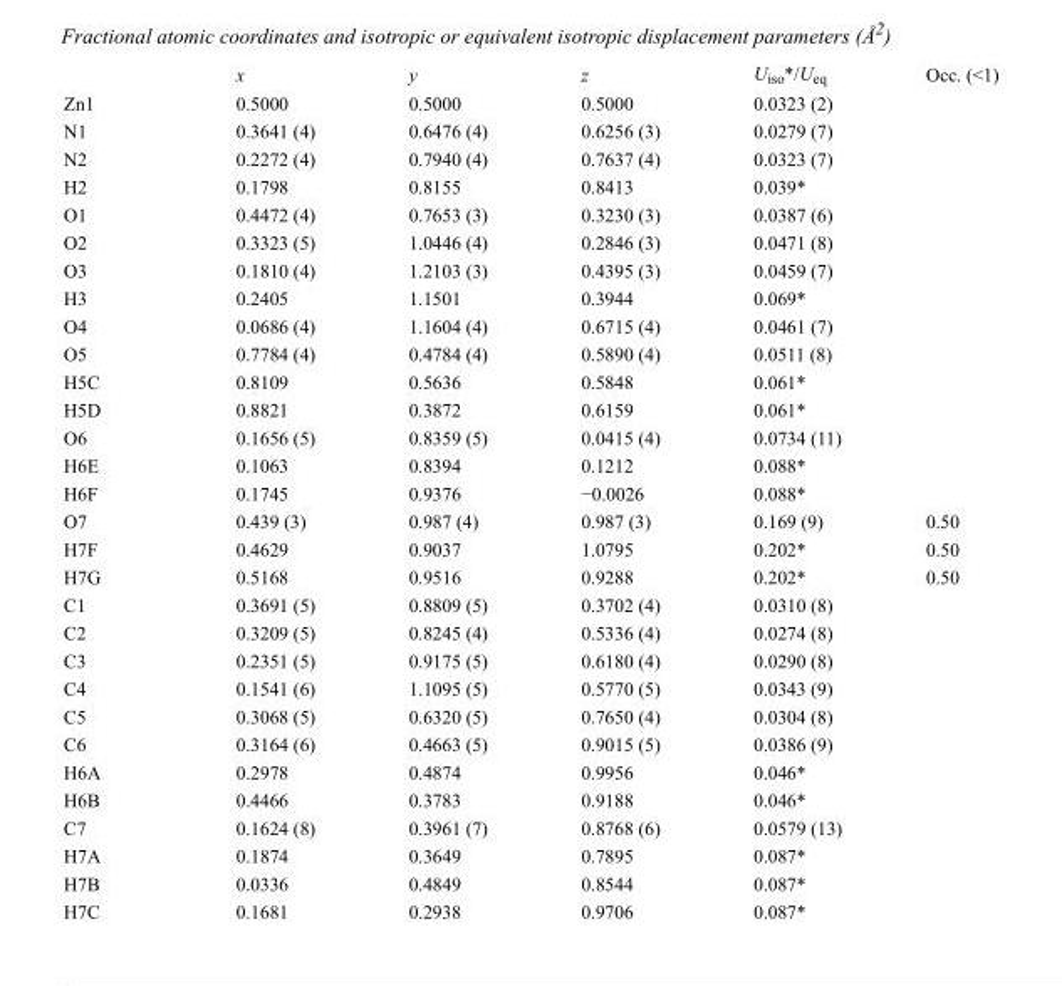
<table><thead><tr><td></td><td>x</td><td>y</td><td>z</td><td>U<sub>iso</sub>*/U<sub>eq</sub></td><td>Occ. (&lt;1)</td></tr></thead><tbody><tr><td>Zn1</td><td>0.5000</td><td>0.5000</td><td>0.5000</td><td>0.0323 (2)</td><td></td></tr><tr><td>N1</td><td>0.3641 (4)</td><td>0.6476 (4)</td><td>0.6256 (3)</td><td>0.0279 (7)</td><td></td></tr><tr><td>N2</td><td>0.2272 (4)</td><td>0.7940 (4)</td><td>0.7637 (4)</td><td>0.0323 (7)</td><td></td></tr><tr><td>H2</td><td>0.1798</td><td>0.8155</td><td>0.8413</td><td>0.039*</td><td></td></tr><tr><td>O1</td><td>0.4472 (4)</td><td>0.7653 (3)</td><td>0.3230 (3)</td><td>0.0387 (6)</td><td></td></tr><tr><td>O2</td><td>0.3323 (5)</td><td>1.0446 (4)</td><td>0.2846 (3)</td><td>0.0471 (8)</td><td></td></tr><tr><td>O3</td><td>0.1810 (4)</td><td>1.2103 (3)</td><td>0.4395 (3)</td><td>0.0459 (7)</td><td></td></tr><tr><td>H3</td><td>0.2405</td><td>1.1501</td><td>0.3944</td><td>0.069*</td><td></td></tr><tr><td>O4</td><td>0.0686 (4)</td><td>1.1604 (4)</td><td>0.6715 (4)</td><td>0.0461 (7)</td><td></td></tr><tr><td>O5</td><td>0.7784 (4)</td><td>0.4784 (4)</td><td>0.5890 (4)</td><td>0.0511 (8)</td><td></td></tr><tr><td>H5C</td><td>0.8109</td><td>0.5636</td><td>0.5848</td><td>0.061*</td><td></td></tr><tr><td>H5D</td><td>0.8821</td><td>0.3872</td><td>0.6159</td><td>0.061*</td><td></td></tr><tr><td>O6</td><td>0.1656 (5)</td><td>0.8359 (5)</td><td>0.0415 (4)</td><td>0.0734 (11)</td><td></td></tr><tr><td>H6E</td><td>0.1063</td><td>0.8394</td><td>0.1212</td><td>0.088*</td><td></td></tr><tr><td>H6F</td><td>0.1745</td><td>0.9376</td><td>−0.0026</td><td>0.088*</td><td></td></tr><tr><td>O7</td><td>0.439 (3)</td><td>0.987 (4)</td><td>0.987 (3)</td><td>0.169 (9)</td><td>0.50</td></tr><tr><td>H7F</td><td>0.4629</td><td>0.9037</td><td>1.0795</td><td>0.202*</td><td>0.50</td></tr><tr><td>H7G</td><td>0.5168</td><td>0.9516</td><td>0.9288</td><td>0.202*</td><td>0.50</td></tr><tr><td>C1</td><td>0.3691 (5)</td><td>0.8809 (5)</td><td>0.3702 (4)</td><td>0.0310 (8)</td><td></td></tr><tr><td>C2</td><td>0.3209 (5)</td><td>0.8245 (4)</td><td>0.5336 (4)</td><td>0.0274 (8)</td><td></td></tr><tr><td>C3</td><td>0.2351 (5)</td><td>0.9175 (5)</td><td>0.6180 (4)</td><td>0.0290 (8)</td><td></td></tr><tr><td>C4</td><td>0.1541 (6)</td><td>1.1095 (5)</td><td>0.5770 (5)</td><td>0.0343 (9)</td><td></td></tr><tr><td>C5</td><td>0.3068 (5)</td><td>0.6320 (5)</td><td>0.7650 (4)</td><td>0.0304 (8)</td><td></td></tr><tr><td>C6</td><td>0.3164 (6)</td><td>0.4663 (5)</td><td>0.9015 (5)</td><td>0.0386 (9)</td><td></td></tr><tr><td>H6A</td><td>0.2978</td><td>0.4874</td><td>0.9956</td><td>0.046*</td><td></td></tr><tr><td>H6B</td><td>0.4466</td><td>0.3783</td><td>0.9188</td><td>0.046*</td><td></td></tr><tr><td>C7</td><td>0.1624 (8)</td><td>0.3961 (7)</td><td>0.8768 (6)</td><td>0.0579 (13)</td><td></td></tr><tr><td>H7A</td><td>0.1874</td><td>0.3649</td><td>0.7895</td><td>0.087*</td><td></td></tr><tr><td>H7B</td><td>0.0336</td><td>0.4849</td><td>0.8544</td><td>0.087*</td><td></td></tr><tr><td>H7C</td><td>0.1681</td><td>0.2938</td><td>0.9706</td><td>0.087*</td><td></td></tr></tbody></table>